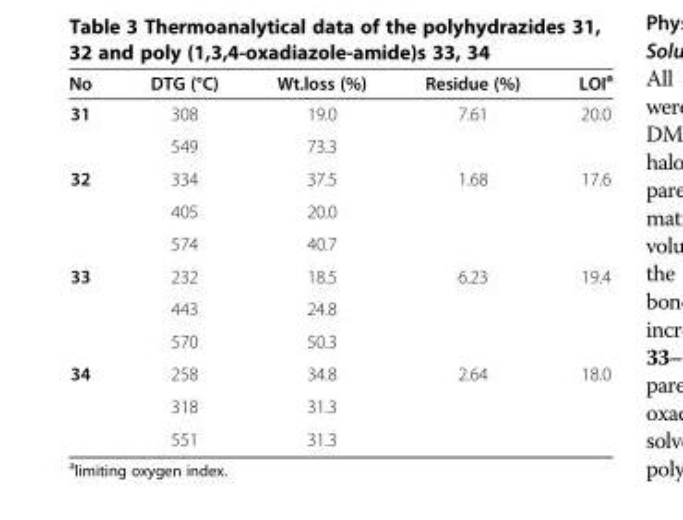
<table><thead><tr><td>No</td><td>DTG (°C)</td><td>Wt.loss (%)</td><td>Residue (%)</td><td>LOI<sup>a</sup></td></tr></thead><tbody><tr><td rowspan="2">31</td><td>308</td><td>19.0</td><td rowspan="2">7.61</td><td rowspan="2">20.0</td></tr><tr><td>549</td><td>73.3</td></tr><tr><td rowspan="3">32</td><td>334</td><td>37.5</td><td rowspan="3">1.68</td><td rowspan="3">17.6</td></tr><tr><td>405</td><td>20.0</td></tr><tr><td>574</td><td>40.7</td></tr><tr><td rowspan="3">33</td><td>232</td><td>18.5</td><td rowspan="3">6.23</td><td rowspan="3">19.4</td></tr><tr><td>443</td><td>24.8</td></tr><tr><td>570</td><td>50.3</td></tr><tr><td rowspan="3">34</td><td>258</td><td>34.8</td><td rowspan="2">2.64</td><td rowspan="2">18.0</td></tr><tr><td>318</td><td>31.3</td></tr><tr><td>551</td><td>31.3</td><td></td><td></td></tr></tbody></table>